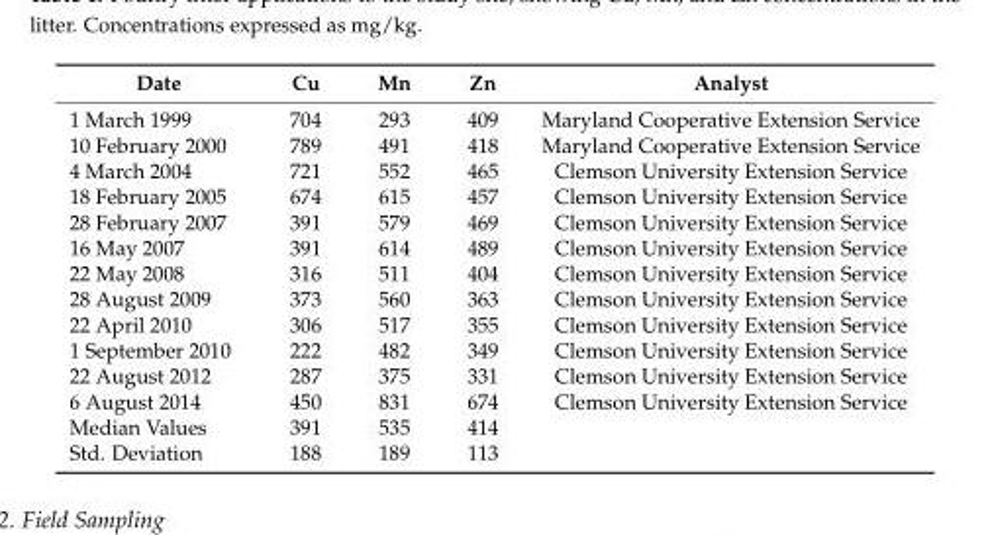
<table><thead><tr><td>Date</td><td>Cu</td><td>Mn</td><td>Zn</td><td>Analyst</td></tr></thead><tbody><tr><td>1 March 1999</td><td>704</td><td>293</td><td>409</td><td>Maryland Cooperative Extension Service</td></tr><tr><td>10 February 2000</td><td>789</td><td>491</td><td>418</td><td>Maryland Cooperative Extension Service</td></tr><tr><td>4 March 2004</td><td>721</td><td>552</td><td>465</td><td>Clemson University Extension Service</td></tr><tr><td>18 February 2005</td><td>674</td><td>615</td><td>457</td><td>Clemson University Extension Service</td></tr><tr><td>28 February 2007</td><td>391</td><td>579</td><td>469</td><td>Clemson University Extension Service</td></tr><tr><td>16 May 2007</td><td>391</td><td>614</td><td>489</td><td>Clemson University Extension Service</td></tr><tr><td>22 May 2008</td><td>316</td><td>511</td><td>404</td><td>Clemson University Extension Service</td></tr><tr><td>28 August 2009</td><td>373</td><td>560</td><td>363</td><td>Clemson University Extension Service</td></tr><tr><td>22 April 2010</td><td>306</td><td>517</td><td>355</td><td>Clemson University Extension Service</td></tr><tr><td>1 September 2010</td><td>222</td><td>482</td><td>349</td><td>Clemson University Extension Service</td></tr><tr><td>22 August 2012</td><td>287</td><td>375</td><td>331</td><td>Clemson University Extension Service</td></tr><tr><td>6 August 2014</td><td>450</td><td>831</td><td>674</td><td>Clemson University Extension Service</td></tr><tr><td>Median Values</td><td>391</td><td>535</td><td>414</td><td></td></tr><tr><td>Std. Deviation</td><td>188</td><td>189</td><td>113</td><td></td></tr></tbody></table>